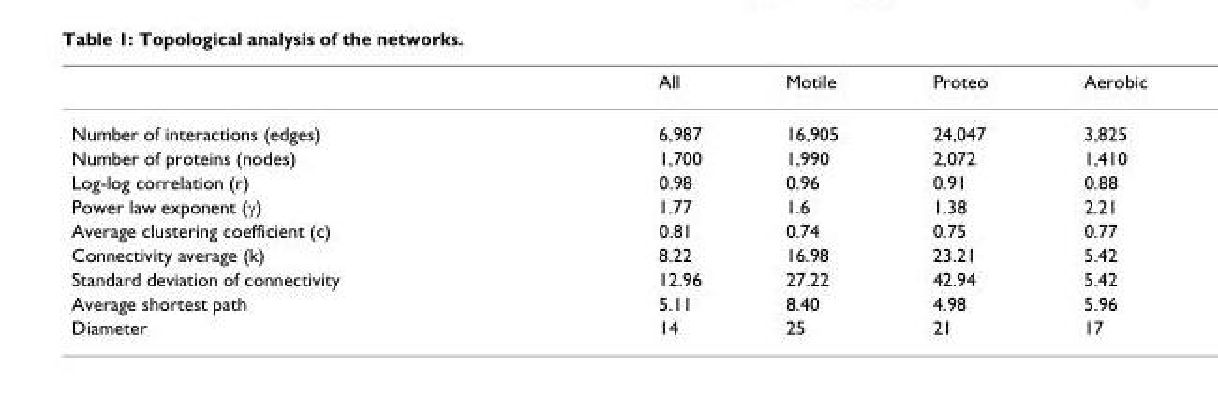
<table><thead><tr><td></td><td>All</td><td>Motile</td><td>Proteo</td><td>Aerobic</td></tr></thead><tbody><tr><td>Number of interactions (edges)</td><td>6,987</td><td>16,905</td><td>24,047</td><td>3,825</td></tr><tr><td>Number of proteins (nodes)</td><td>1,700</td><td>1,990</td><td>2,072</td><td>1,410</td></tr><tr><td>Log-log correlation (r)</td><td>0.98</td><td>0.96</td><td>0.91</td><td>0.88</td></tr><tr><td>Power law exponent (γ)</td><td>1.77</td><td>1.6</td><td>1.38</td><td>2.21</td></tr><tr><td>Average clustering coefficient (c)</td><td>0.81</td><td>0.74</td><td>0.75</td><td>0.77</td></tr><tr><td>Connectivity average (k)</td><td>8.22</td><td>16.98</td><td>23.21</td><td>5.42</td></tr><tr><td>Standard deviation of connectivity</td><td>12.96</td><td>27.22</td><td>42.94</td><td>5.42</td></tr><tr><td>Average shortest path</td><td>5.11</td><td>8.40</td><td>4.98</td><td>5.96</td></tr><tr><td>Diameter</td><td>14</td><td>25</td><td>21</td><td>17</td></tr></tbody></table>